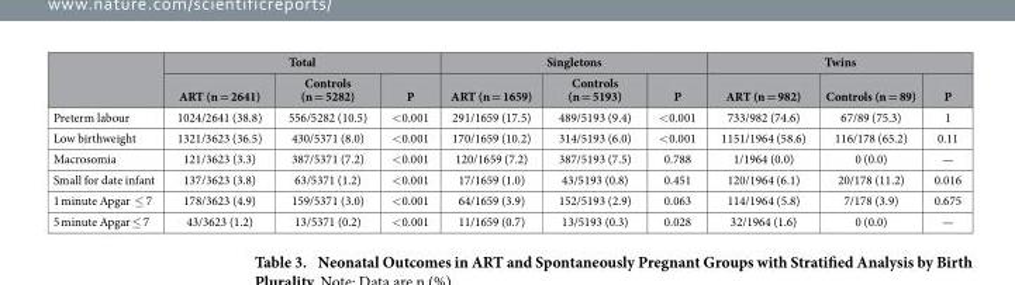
<table><thead><tr><td rowspan="2"></td><td colspan="3">Total</td><td colspan="3">Singletons</td><td colspan="3">Twins</td></tr><tr><td>ART (n = 2641)</td><td>Controls (n = 5282)</td><td>P</td><td>ART (n = 1659)</td><td>Controls (n = 5193)</td><td>P</td><td>ART (n = 982)</td><td>Controls (n = 89)</td><td>P</td></tr></thead><tbody><tr><td>Preterm labour</td><td>1024/2641 (38.8)</td><td>556/5282 (10.5)</td><td>&lt; 0.001</td><td>291/1659 (17.5)</td><td>489/5193 (9.4)</td><td>&lt; 0.001</td><td>733/982 (74.6)</td><td>67/89 (75.3)</td><td>1</td></tr><tr><td>Low birthweight</td><td>1321/3623 (36.5)</td><td>430/5371 (8.0)</td><td>&lt; 0.001</td><td>170/1659 (10.2)</td><td>314/5193 (6.0)</td><td>&lt; 0.001</td><td>1151/1964 (58.6)</td><td>116/178 (65.2)</td><td>0.11</td></tr><tr><td>Macrosomia</td><td>121/3623 (3.3)</td><td>387/5371 (7.2)</td><td>&lt; 0.001</td><td>120/1659 (7.2)</td><td>387/5193 (7.5)</td><td>0.788</td><td>1/1964 (0.0)</td><td>0 (0.0)</td><td>—</td></tr><tr><td>Small for date infant</td><td>137/3623 (3.8)</td><td>63/5371 (1.2)</td><td>&lt; 0.001</td><td>17/1659 (1.0)</td><td>43/5193 (0.8)</td><td>0.451</td><td>120/1964 (6.1)</td><td>20/178 (11.2)</td><td>0.016</td></tr><tr><td>1 minute Apgar ≤ 7</td><td>178/3623 (4.9)</td><td>159/5371 (3.0)</td><td>&lt; 0.001</td><td>64/1659 (3.9)</td><td>152/5193 (2.9)</td><td>0.063</td><td>114/1964 (5.8)</td><td>7/178 (3.9)</td><td>0.675</td></tr><tr><td>5 minute Apgar ≤ 7</td><td>43/3623 (1.2)</td><td>13/5371 (0.2)</td><td>&lt; 0.001</td><td>11/1659 (0.7)</td><td>13/5193 (0.3)</td><td>0.028</td><td>32/1964 (1.6)</td><td>0 (0.0)</td><td>—</td></tr></tbody></table>